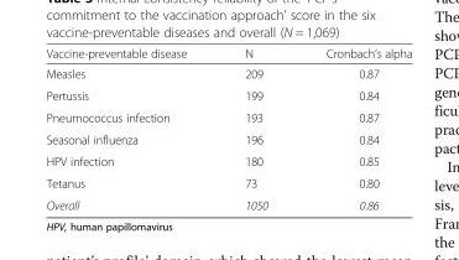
<table><thead><tr><td>Vaccine-preventable disease</td><td>N</td><td>Cronbach’s alpha</td></tr></thead><tbody><tr><td>Measles</td><td>209</td><td>0.87</td></tr><tr><td>Pertussis</td><td>199</td><td>0.84</td></tr><tr><td>Pneumococcus infection</td><td>193</td><td>0.87</td></tr><tr><td>Seasonal influenza</td><td>196</td><td>0.84</td></tr><tr><td>HPV infection</td><td>180</td><td>0.85</td></tr><tr><td>Tetanus</td><td>73</td><td>0.80</td></tr><tr><td>Overall</td><td>1050</td><td>0.86</td></tr></tbody></table>